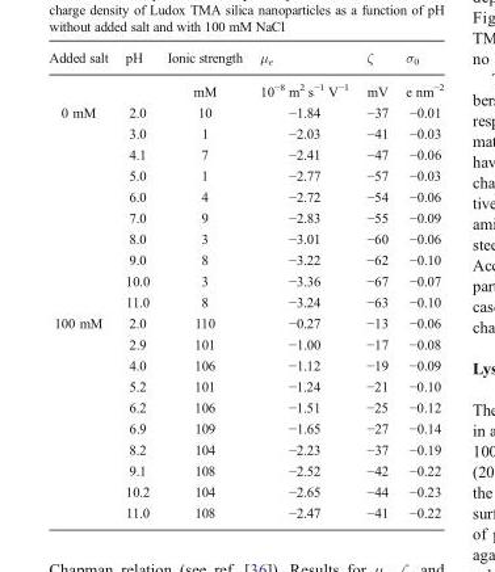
<table><thead><tr><td>Added salt</td><td>pH</td><td>Ionic strength</td><td>μ<sub>e</sub></td><td>ζ</td><td>σ<sub>0</sub></td></tr></thead><tbody><tr><td></td><td></td><td>mM</td><td>10<sup>−8</sup> m<sup>2</sup> s<sup>−1</sup> V<sup>−1</sup></td><td>mV</td><td>e nm<sup>−2</sup></td></tr><tr><td rowspan="10">0 mM</td><td>2.0</td><td>10</td><td>−1.84</td><td>−37</td><td>−0.01</td></tr><tr><td>3.0</td><td>1</td><td>−2.03</td><td>−41</td><td>−0.03</td></tr><tr><td>4.1</td><td>7</td><td>−2.41</td><td>−47</td><td>−0.06</td></tr><tr><td>5.0</td><td>1</td><td>−2.77</td><td>−57</td><td>−0.03</td></tr><tr><td>6.0</td><td>4</td><td>−2.72</td><td>−54</td><td>−0.06</td></tr><tr><td>7.0</td><td>9</td><td>−2.83</td><td>−55</td><td>−0.09</td></tr><tr><td>8.0</td><td>3</td><td>−3.01</td><td>−60</td><td>−0.06</td></tr><tr><td>9.0</td><td>8</td><td>−3.22</td><td>−62</td><td>−0.10</td></tr><tr><td>10.0</td><td>3</td><td>−3.36</td><td>−67</td><td>−0.07</td></tr><tr><td>11.0</td><td>8</td><td>−3.24</td><td>−63</td><td>−0.10</td></tr><tr><td rowspan="10">100 mM</td><td>2.0</td><td>110</td><td>−0.27</td><td>−13</td><td>−0.06</td></tr><tr><td>2.9</td><td>101</td><td>−1.00</td><td>−17</td><td>−0.08</td></tr><tr><td>4.0</td><td>106</td><td>−1.12</td><td>−19</td><td>−0.09</td></tr><tr><td>5.2</td><td>101</td><td>−1.24</td><td>−21</td><td>−0.10</td></tr><tr><td>6.2</td><td>106</td><td>−1.51</td><td>−25</td><td>−0.12</td></tr><tr><td>6.9</td><td>109</td><td>−1.65</td><td>−27</td><td>−0.14</td></tr><tr><td>8.2</td><td>104</td><td>−2.23</td><td>−37</td><td>−0.19</td></tr><tr><td>9.1</td><td>108</td><td>−2.52</td><td>−42</td><td>−0.22</td></tr><tr><td>10.2</td><td>104</td><td>−2.65</td><td>−44</td><td>−0.23</td></tr><tr><td>11.0</td><td>108</td><td>−2.47</td><td>−41</td><td>−0.22</td></tr></tbody></table>